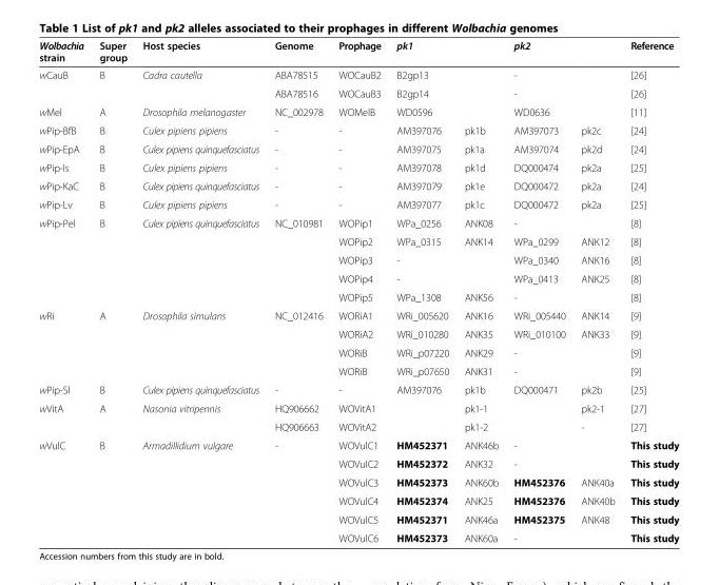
<table><thead><tr><td>Wolbachia strain</td><td>Super group</td><td>Host species</td><td>Genome</td><td>Prophage</td><td>pk1</td><td></td><td>pk2</td><td></td><td>Reference</td></tr></thead><tbody><tr><td rowspan="2">wCauB</td><td>B</td><td>Cadra cautella</td><td>ABA78515</td><td>WOCauB2</td><td>B2gp13</td><td></td><td>-</td><td></td><td>[26]</td></tr><tr><td></td><td></td><td>ABA78516</td><td>WOCauB3</td><td>B2gp14</td><td></td><td>-</td><td></td><td>[26]</td></tr><tr><td>wMel</td><td>A</td><td>Drosophila melanogaster</td><td>NC_002978</td><td>WOMelB</td><td>WD0596</td><td></td><td>WD0636</td><td></td><td>[11]</td></tr><tr><td>wPip-BfB</td><td>B</td><td>Culex pipiens pipiens</td><td>-</td><td>-</td><td>AM397076</td><td>pk1b</td><td>AM397073</td><td>pk2c</td><td>[24]</td></tr><tr><td>wPip-EpA</td><td>B</td><td>Culex pipiens quinquefasciatus</td><td>-</td><td>-</td><td>AM397075</td><td>pk1a</td><td>AM397074</td><td>pk2d</td><td>[24]</td></tr><tr><td>wPip-Is</td><td>B</td><td>Culex pipiens pipiens</td><td>-</td><td>-</td><td>AM397078</td><td>pk1d</td><td>DQ000474</td><td>pk2a</td><td>[25]</td></tr><tr><td>wPip-KaC</td><td>B</td><td>Culex pipiens quinquefasciatus</td><td>-</td><td>-</td><td>AM397079</td><td>pk1e</td><td>DQ000472</td><td>pk2a</td><td>[24]</td></tr><tr><td>wPip-Lv</td><td>B</td><td>Culex pipiens pipiens</td><td>-</td><td>-</td><td>AM397077</td><td>pk1c</td><td>DQ000472</td><td>pk2a</td><td>[25]</td></tr><tr><td rowspan="5">wPip-Pel</td><td>B</td><td>Culex pipiens quinquefasciatus</td><td>NC_010981</td><td>WOPip1</td><td>WPa_0256</td><td>ANK08</td><td>-</td><td></td><td>[8]</td></tr><tr><td></td><td></td><td></td><td>WOPip2</td><td>WPa_0315</td><td>ANK14</td><td>WPa_0299</td><td>ANK12</td><td>[8]</td></tr><tr><td></td><td></td><td></td><td>WOPip3</td><td>-</td><td></td><td>WPa_0340</td><td>ANK16</td><td>[8]</td></tr><tr><td></td><td></td><td></td><td>WOPip4</td><td>-</td><td></td><td>WPa_0413</td><td>ANK25</td><td>[8]</td></tr><tr><td></td><td></td><td></td><td>WOPip5</td><td>WPa_1308</td><td>ANK56</td><td>-</td><td></td><td>[8]</td></tr><tr><td rowspan="4">wRi</td><td>A</td><td>Drosophila simulans</td><td>NC_012416</td><td>WORiA1</td><td>WRi_005620</td><td>ANK16</td><td>WRi_005440</td><td>ANK14</td><td>[9]</td></tr><tr><td></td><td></td><td></td><td>WORiA2</td><td>WRi_010280</td><td>ANK35</td><td>WRi_010100</td><td>ANK33</td><td>[9]</td></tr><tr><td></td><td></td><td></td><td>WORiB</td><td>WRi_p07220</td><td>ANK29</td><td>-</td><td></td><td>[9]</td></tr><tr><td></td><td></td><td></td><td>WORiB</td><td>WRi_p07650</td><td>ANK31</td><td>-</td><td></td><td>[9]</td></tr><tr><td>wPip-Sl</td><td>B</td><td>Culex pipiens quinquefasciatus</td><td>-</td><td>-</td><td>AM397076</td><td>pk1b</td><td>DQ000471</td><td>pk2b</td><td>[25]</td></tr><tr><td rowspan="2">wVitA</td><td>A</td><td>Nasonia vitripennis</td><td>HQ906662</td><td>WOVitA1</td><td></td><td>pk1-1</td><td></td><td>pk2-1</td><td>[27]</td></tr><tr><td></td><td></td><td>HQ906663</td><td>WOVitA2</td><td></td><td>pk1-2</td><td></td><td>-</td><td>[27]</td></tr><tr><td rowspan="6">wVulC</td><td>B</td><td>Armadillidium vulgare</td><td>-</td><td>WOVulC1</td><td>HM452371</td><td>ANK46b</td><td>-</td><td></td><td>This study</td></tr><tr><td></td><td></td><td></td><td>WOVulC2</td><td>HM452372</td><td>ANK32</td><td>-</td><td></td><td>This study</td></tr><tr><td></td><td></td><td></td><td>WOVulC3</td><td>HM452373</td><td>ANK60b</td><td>HM452376</td><td>ANK40a</td><td>This study</td></tr><tr><td></td><td></td><td></td><td>WOVulC4</td><td>HM452374</td><td>ANK25</td><td>HM452376</td><td>ANK40b</td><td>This study</td></tr><tr><td></td><td></td><td></td><td>WOVulC5</td><td>HM452371</td><td>ANK46a</td><td>HM452375</td><td>ANK48</td><td>This study</td></tr><tr><td></td><td></td><td></td><td>WOVulC6</td><td>HM452373</td><td>ANK60a</td><td>-</td><td></td><td>This study</td></tr></tbody></table>